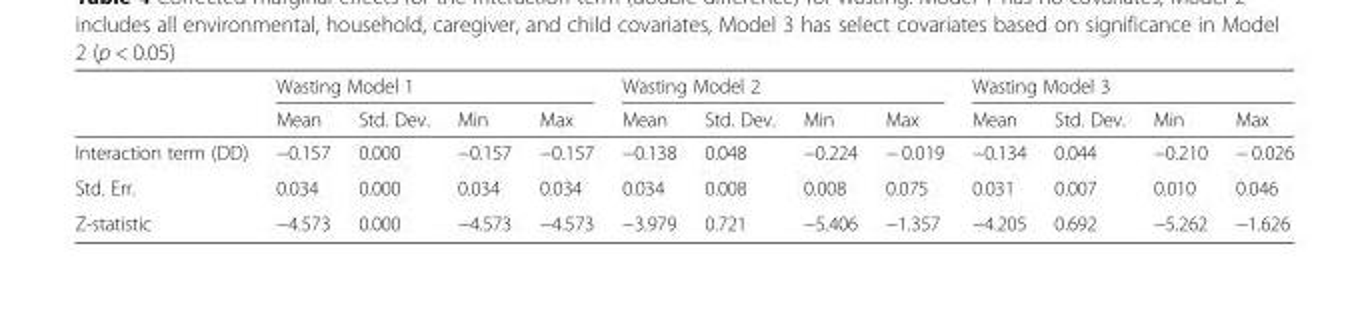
<table><thead><tr><td rowspan="2"></td><td colspan="4">Wasting Model 1</td><td colspan="4">Wasting Model 2</td><td colspan="4">Wasting Model 3</td></tr><tr><td>Mean</td><td>Std. Dev.</td><td>Min</td><td>Max</td><td>Mean</td><td>Std. Dev.</td><td>Min</td><td>Max</td><td>Mean</td><td>Std. Dev.</td><td>Min</td><td>Max</td></tr></thead><tbody><tr><td>Interaction term (DD)</td><td>−0.157</td><td>0.000</td><td>−0.157</td><td>−0.157</td><td>−0.138</td><td>0.048</td><td>−0.224</td><td>− 0.019</td><td>−0.134</td><td>0.044</td><td>−0.210</td><td>− 0.026</td></tr><tr><td>Std. Err.</td><td>0.034</td><td>0.000</td><td>0.034</td><td>0.034</td><td>0.034</td><td>0.008</td><td>0.008</td><td>0.075</td><td>0.031</td><td>0.007</td><td>0.010</td><td>0.046</td></tr><tr><td>Z-statistic</td><td>−4.573</td><td>0.000</td><td>−4.573</td><td>−4.573</td><td>−3.979</td><td>0.721</td><td>−5.406</td><td>−1.357</td><td>−4.205</td><td>0.692</td><td>−5.262</td><td>−1.626</td></tr></tbody></table>